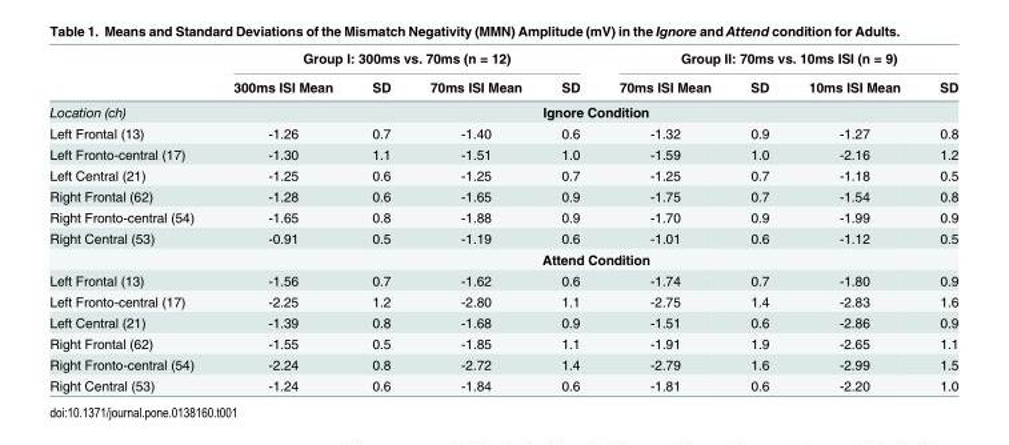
<table><thead><tr><td rowspan="2"></td><td colspan="4">Group I: 300ms vs. 70ms (n = 12)</td><td colspan="4">Group II: 70ms vs. 10ms ISI (n = 9)</td></tr><tr><td>300ms ISI Mean</td><td>SD</td><td>70ms ISI Mean</td><td>SD</td><td>70ms ISI Mean</td><td>SD</td><td>10ms ISI Mean</td><td>SD</td></tr></thead><tbody><tr><td>Location (ch)</td><td colspan="8">Ignore Condition</td></tr><tr><td>Left Frontal (13)</td><td>-1.26</td><td>0.7</td><td>-1.40</td><td>0.6</td><td>-1.32</td><td>0.9</td><td>-1.27</td><td>0.8</td></tr><tr><td>Left Fronto-central (17)</td><td>-1.30</td><td>1.1</td><td>-1.51</td><td>1.0</td><td>-1.59</td><td>1.0</td><td>-2.16</td><td>1.2</td></tr><tr><td>Left Central (21)</td><td>-1.25</td><td>0.6</td><td>-1.25</td><td>0.7</td><td>-1.25</td><td>0.7</td><td>-1.18</td><td>0.5</td></tr><tr><td>Right Frontal (62)</td><td>-1.28</td><td>0.6</td><td>-1.65</td><td>0.9</td><td>-1.75</td><td>0.7</td><td>-1.54</td><td>0.8</td></tr><tr><td>Right Fronto-central (54)</td><td>-1.65</td><td>0.8</td><td>-1.88</td><td>0.9</td><td>-1.70</td><td>0.9</td><td>-1.99</td><td>0.9</td></tr><tr><td rowspan="2">Right Central (53)</td><td>-0.91</td><td>0.5</td><td>-1.19</td><td>0.6</td><td>-1.01</td><td>0.6</td><td>-1.12</td><td>0.5</td></tr><tr><td colspan="8">Attend Condition</td></tr><tr><td>Left Frontal (13)</td><td>-1.56</td><td>0.7</td><td>-1.62</td><td>0.6</td><td>-1.74</td><td>0.7</td><td>-1.80</td><td>0.9</td></tr><tr><td>Left Fronto-central (17)</td><td>-2.25</td><td>1.2</td><td>-2.80</td><td>1.1</td><td>-2.75</td><td>1.4</td><td>-2.83</td><td>1.6</td></tr><tr><td>Left Central (21)</td><td>-1.39</td><td>0.8</td><td>-1.68</td><td>0.9</td><td>-1.51</td><td>0.6</td><td>-2.86</td><td>0.9</td></tr><tr><td>Right Frontal (62)</td><td>-1.55</td><td>0.5</td><td>-1.85</td><td>1.1</td><td>-1.91</td><td>1.9</td><td>-2.65</td><td>1.1</td></tr><tr><td>Right Fronto-central (54)</td><td>-2.24</td><td>0.8</td><td>-2.72</td><td>1.4</td><td>-2.79</td><td>1.6</td><td>-2.99</td><td>1.5</td></tr><tr><td>Right Central (53)</td><td>-1.24</td><td>0.6</td><td>-1.84</td><td>0.6</td><td>-1.81</td><td>0.6</td><td>-2.20</td><td>1.0</td></tr></tbody></table>